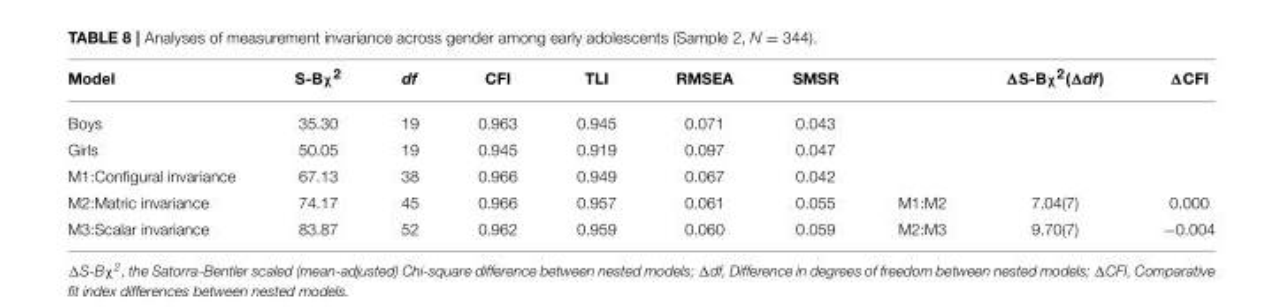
<table><thead><tr><td>Model</td><td>S-Bχ<sup>2</sup></td><td>df</td><td>CFI</td><td>TLI</td><td>RMSEA</td><td>SMSR</td><td></td><td>ΔS-Bχ<sup>2</sup>(Δdf)</td><td>ΔCFI</td></tr></thead><tbody><tr><td>Boys</td><td>35.30</td><td>19</td><td>0.963</td><td>0.945</td><td>0.071</td><td>0.043</td><td></td><td></td><td></td></tr><tr><td>Girls</td><td>50.05</td><td>19</td><td>0.945</td><td>0.919</td><td>0.097</td><td>0.047</td><td></td><td></td><td></td></tr><tr><td>M1:Configural invariance</td><td>67.13</td><td>38</td><td>0.966</td><td>0.949</td><td>0.067</td><td>0.042</td><td></td><td></td><td></td></tr><tr><td>M2:Matric invariance</td><td>74.17</td><td>45</td><td>0.966</td><td>0.957</td><td>0.061</td><td>0.055</td><td>M1:M2</td><td>7.04(7)</td><td>0.000</td></tr><tr><td>M3:Scalar invariance</td><td>83.87</td><td>52</td><td>0.962</td><td>0.959</td><td>0.060</td><td>0.059</td><td>M2:M3</td><td>9.70(7)</td><td>−0.004</td></tr></tbody></table>